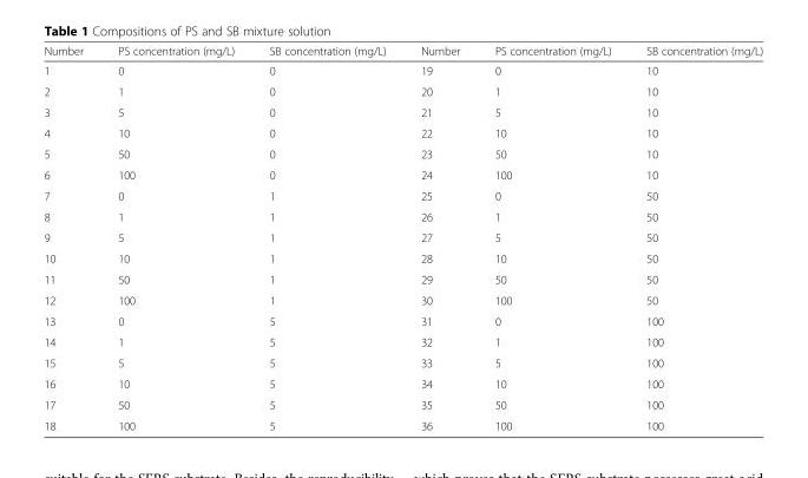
<table><thead><tr><td>Number</td><td>PS concentration (mg/L)</td><td>SB concentration (mg/L)</td><td>Number</td><td>PS concentration (mg/L)</td><td>SB concentration (mg/L)</td></tr></thead><tbody><tr><td>1</td><td>0</td><td>0</td><td>19</td><td>0</td><td>10</td></tr><tr><td>2</td><td>1</td><td>0</td><td>20</td><td>1</td><td>10</td></tr><tr><td>3</td><td>5</td><td>0</td><td>21</td><td>5</td><td>10</td></tr><tr><td>4</td><td>10</td><td>0</td><td>22</td><td>10</td><td>10</td></tr><tr><td>5</td><td>50</td><td>0</td><td>23</td><td>50</td><td>10</td></tr><tr><td>6</td><td>100</td><td>0</td><td>24</td><td>100</td><td>10</td></tr><tr><td>7</td><td>0</td><td>1</td><td>25</td><td>0</td><td>50</td></tr><tr><td>8</td><td>1</td><td>1</td><td>26</td><td>1</td><td>50</td></tr><tr><td>9</td><td>5</td><td>1</td><td>27</td><td>5</td><td>50</td></tr><tr><td>10</td><td>10</td><td>1</td><td>28</td><td>10</td><td>50</td></tr><tr><td>11</td><td>50</td><td>1</td><td>29</td><td>50</td><td>50</td></tr><tr><td>12</td><td>100</td><td>1</td><td>30</td><td>100</td><td>50</td></tr><tr><td>13</td><td>0</td><td>5</td><td>31</td><td>0</td><td>100</td></tr><tr><td>14</td><td>1</td><td>5</td><td>32</td><td>1</td><td>100</td></tr><tr><td>15</td><td>5</td><td>5</td><td>33</td><td>5</td><td>100</td></tr><tr><td>16</td><td>10</td><td>5</td><td>34</td><td>10</td><td>100</td></tr><tr><td>17</td><td>50</td><td>5</td><td>35</td><td>50</td><td>100</td></tr><tr><td>18</td><td>100</td><td>5</td><td>36</td><td>100</td><td>100</td></tr></tbody></table>